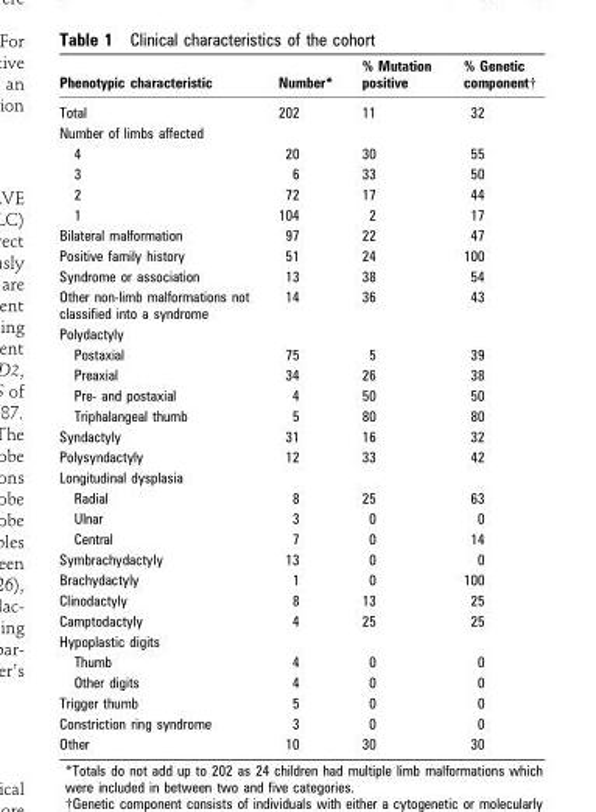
<table><thead><tr><td>Phenotypic characteristic</td><td>Number*</td><td>% Mutation positive</td><td>% Genetic component†</td></tr></thead><tbody><tr><td>Total</td><td>202</td><td>11</td><td>32</td></tr><tr><td colspan="4">Number of limbs affected</td></tr><tr><td>4</td><td>20</td><td>30</td><td>55</td></tr><tr><td>3</td><td>6</td><td>33</td><td>50</td></tr><tr><td>2</td><td>72</td><td>17</td><td>44</td></tr><tr><td>1</td><td>104</td><td>2</td><td>17</td></tr><tr><td>Bilateral malformation</td><td>97</td><td>22</td><td>47</td></tr><tr><td>Positive family history</td><td>51</td><td>24</td><td>100</td></tr><tr><td>Syndrome or association</td><td>13</td><td>38</td><td>54</td></tr><tr><td>Other non-limb malformations not classified into a syndrome</td><td>14</td><td>36</td><td>43</td></tr><tr><td colspan="4">Polydactyly</td></tr><tr><td>Postaxial</td><td>75</td><td>5</td><td>39</td></tr><tr><td>Preaxial</td><td>34</td><td>26</td><td>38</td></tr><tr><td>Pre- and postaxial</td><td>4</td><td>50</td><td>50</td></tr><tr><td>Triphalangeal thumb</td><td>5</td><td>80</td><td>80</td></tr><tr><td>Syndactyly</td><td>31</td><td>16</td><td>32</td></tr><tr><td>Polysyndactyly</td><td>12</td><td>33</td><td>42</td></tr><tr><td colspan="4">Longitudinal dysplasia</td></tr><tr><td>Radial</td><td>8</td><td>25</td><td>63</td></tr><tr><td>Ulnar</td><td>3</td><td>0</td><td>0</td></tr><tr><td>Central</td><td>7</td><td>0</td><td>14</td></tr><tr><td>Symbrachydactyly</td><td>13</td><td>0</td><td>0</td></tr><tr><td>Brachydactyly</td><td>1</td><td>0</td><td>100</td></tr><tr><td>Clinodactyly</td><td>8</td><td>13</td><td>25</td></tr><tr><td>Camptodactyly</td><td>4</td><td>25</td><td>25</td></tr><tr><td colspan="4">Hypoplastic digits</td></tr><tr><td>Thumb</td><td>4</td><td>0</td><td>0</td></tr><tr><td>Other digits</td><td>4</td><td>0</td><td>0</td></tr><tr><td>Trigger thumb</td><td>5</td><td>0</td><td>0</td></tr><tr><td>Constriction ring syndrome</td><td>3</td><td>0</td><td>0</td></tr><tr><td>Other</td><td>10</td><td>30</td><td>30</td></tr></tbody></table>